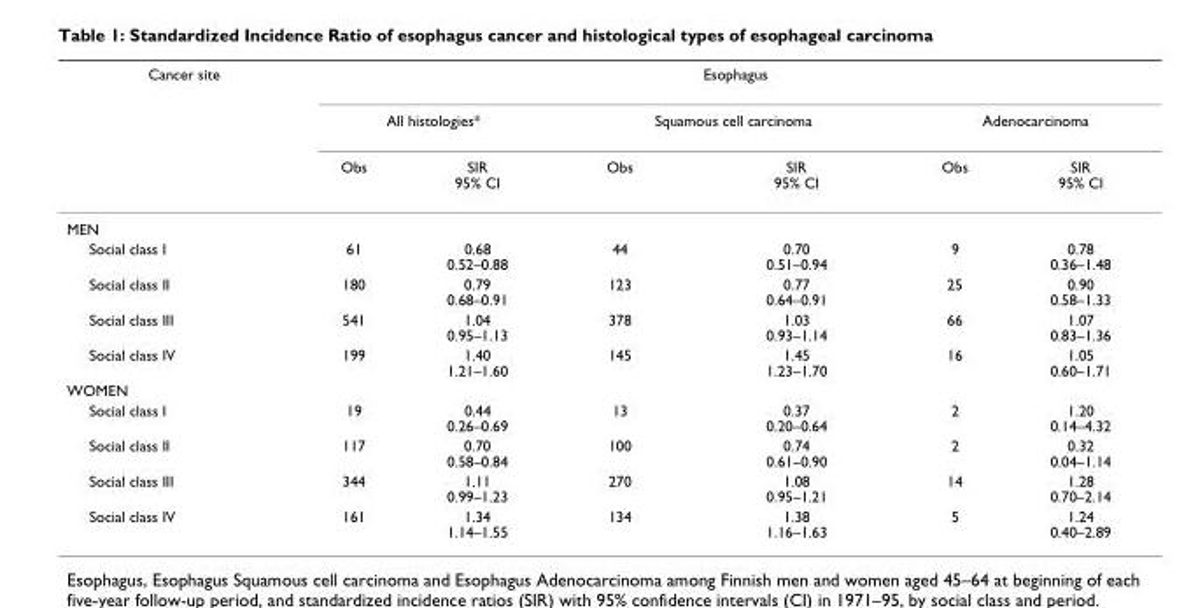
<table><thead><tr><td rowspan="3">Cancer site</td><td colspan="6">Esophagus</td></tr><tr><td colspan="2">All histologies*</td><td colspan="2">Squamous cell carcinoma</td><td colspan="2">Adenocarcinoma</td></tr><tr><td>Obs</td><td>SIR 95% CI</td><td>Obs</td><td>SIR 95% CI</td><td>Obs</td><td>SIR 95% CI</td></tr></thead><tbody><tr><td colspan="7">MEN</td></tr><tr><td>Social class I</td><td>61</td><td>0.68 0.52–0.88</td><td>44</td><td>0.70 0.51–0.94</td><td>9</td><td>0.78 0.36–1.48</td></tr><tr><td>Social class II</td><td>180</td><td>0.79 0.68–0.91</td><td>123</td><td>0.77 0.64–0.91</td><td>25</td><td>0.90 0.58–1.33</td></tr><tr><td>Social class III</td><td>541</td><td>1.04 0.95–1.13</td><td>378</td><td>1.03 0.93–1.14</td><td>66</td><td>1.07 0.83–1.36</td></tr><tr><td>Social class IV</td><td>199</td><td>1.40 1.21–1.60</td><td>145</td><td>1.45 1.23–1.70</td><td>16</td><td>1.05 0.60–1.71</td></tr><tr><td colspan="7">WOMEN</td></tr><tr><td>Social class I</td><td>19</td><td>0.44 0.26–0.69</td><td>13</td><td>0.37 0.20–0.64</td><td>2</td><td>1.20 0.14–4.32</td></tr><tr><td>Social class II</td><td>117</td><td>0.70 0.58–0.84</td><td>100</td><td>0.74 0.61–0.90</td><td>2</td><td>0.32 0.04–1.14</td></tr><tr><td>Social class III</td><td>344</td><td>1.11 0.99–1.23</td><td>270</td><td>1.08 0.95–1.21</td><td>14</td><td>1.28 0.70–2.14</td></tr><tr><td>Social class IV</td><td>161</td><td>1.34 1.14–1.55</td><td>134</td><td>1.38 1.16–1.63</td><td>5</td><td>1.24 0.40–2.89</td></tr></tbody></table>